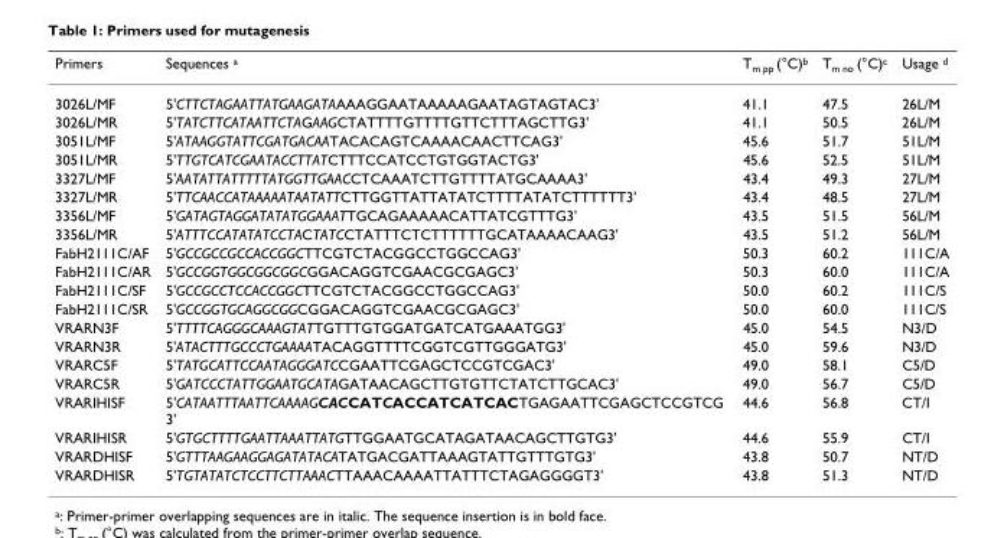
<table><thead><tr><td>Primers</td><td>Sequences <sup>a</sup></td><td>T<sub>m pp</sub> (°C)<sup>b</sup></td><td>T<sub>m no</sub> (°C)<sup>c</sup></td><td>Usage <sup>d</sup></td></tr></thead><tbody><tr><td>3026L/MF</td><td>5&#x27;CTTCTAGAATTATGAAGATAAAAGGAATAAAAAGAATAGTAGTAC3&#x27;</td><td>41.1</td><td>47.5</td><td>26L/M</td></tr><tr><td>3026L/MR</td><td>5&#x27;TATCTTCATAATTCTAGAAGCTATTTTGTTTTGTTCTTTAGCTTG3&#x27;</td><td>41.1</td><td>50.5</td><td>26L/M</td></tr><tr><td>3051L/MF</td><td>5&#x27;ATAAGGTATTCGATGACAATACACAGTCAAAACAACTTCAG3&#x27;</td><td>45.6</td><td>51.7</td><td>51L/M</td></tr><tr><td>3051L/MR</td><td>5&#x27;TTGTCATCGAATACCTTATCTTTCCATCCTGTGGTACTG3&#x27;</td><td>45.6</td><td>52.5</td><td>51L/M</td></tr><tr><td>3327L/MF</td><td>5&#x27;AATATTATTTTTATGGTTGAACCTCAAATCTTGTTTTATGCAAAA3&#x27;</td><td>43.4</td><td>49.3</td><td>27L/M</td></tr><tr><td>3327L/MR</td><td>5&#x27;TTCAACCATAAAAATAATATTCTTGGTTATTATATCTTTTATATCTTTTTT3&#x27;</td><td>43.4</td><td>48.5</td><td>27L/M</td></tr><tr><td>3356L/MF</td><td>5&#x27;GATAGTAGGATATATGGAAATTGCAGAAAAACATTATCGTTTG3&#x27;</td><td>43.5</td><td>51.5</td><td>56L/M</td></tr><tr><td>3356L/MR</td><td>5&#x27;ATTTCCATATATCCTACTATCCTATTTCTCTTTTTTGCATAAAACAAG3&#x27;</td><td>43.5</td><td>51.2</td><td>56L/M</td></tr><tr><td>FabH2111C/AF</td><td>5&#x27;GCCGCCGCCACCGGCTTCGTCTACGGCCTGGCCAG3&#x27;</td><td>50.3</td><td>60.2</td><td>111C/A</td></tr><tr><td>FabH2111C/AR</td><td>5&#x27;GCCGGTGGCGGCGGCGGACAGGTCGAACGCGAGC3&#x27;</td><td>50.3</td><td>60.0</td><td>111C/A</td></tr><tr><td>FabH2111C/SF</td><td>5&#x27;GCCGCCTCCACCGGCTTCGTCTACGGCCTGGCCAG3&#x27;</td><td>50.0</td><td>60.2</td><td>111C/S</td></tr><tr><td>FabH2111C/SR</td><td>5&#x27;GCCGGTGCAGGCGGCGGACAGGTCGAACGCGAGC3&#x27;</td><td>50.0</td><td>60.0</td><td>111C/S</td></tr><tr><td>VRARN3F</td><td>5&#x27;TTTTCAGGGCAAAGTATTGTTTGTGGATGATCATGAAATGG3&#x27;</td><td>45.0</td><td>54.5</td><td>N3/D</td></tr><tr><td>VRARN3R</td><td>5&#x27;ATACTTTGCCCTGAAAATACAGGTTTTCGGTCGTTGGGATG3&#x27;</td><td>45.0</td><td>59.6</td><td>N3/D</td></tr><tr><td>VRARC5F</td><td>5&#x27;TATGCATTCCAATAGGGATCCGAATTCGAGCTCCGTCGAC3&#x27;</td><td>49.0</td><td>58.1</td><td>C5/D</td></tr><tr><td>VRARC5R</td><td>5&#x27;GATCCCTATTGGAATGCATAGATAACAGCTTGTGTTCTATCTTGCAC3&#x27;</td><td>49.0</td><td>56.7</td><td>C5/D</td></tr><tr><td>VRARIHISF</td><td>5&#x27;CATAATTTAATTCAAAAGCACCATCACCATCATCACTGAGAATTCGAGCTCCGTCG 3&#x27;</td><td>44.6</td><td>56.8</td><td>CT/I</td></tr><tr><td>VRARIHISR</td><td>5&#x27;GTGCTTTTGAATTAAATTATGTTGGAATGCATAGATAACAGCTTGTG3&#x27;</td><td>44.6</td><td>55.9</td><td>CT/I</td></tr><tr><td>VRARDHISF</td><td>5&#x27;GTTTAAGAAGGAGATATACATATGACGATTAAAGTATTGTTTGTG3&#x27;</td><td>43.8</td><td>50.7</td><td>NT/D</td></tr><tr><td>VRARDHISR</td><td>5&#x27;TGTATATCTCCTTCTTAAACTTAAACAAAATTATTTCTAGAGGGGT3&#x27;</td><td>43.8</td><td>51.3</td><td>NT/D</td></tr></tbody></table>